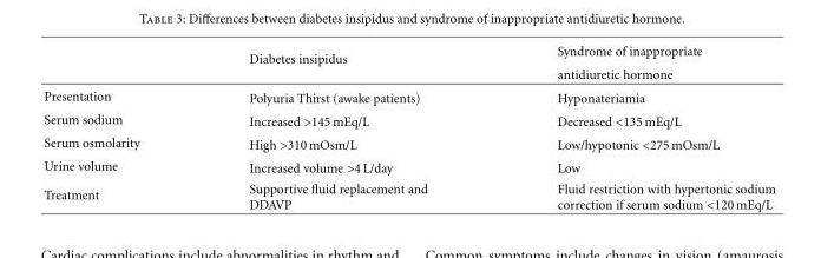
<table><thead><tr><td rowspan="2"></td><td rowspan="2">Diabetes insipidus</td><td rowspan="2">Syndrome of inappropriate antidiuretic hormone</td></tr><tr></tr></thead><tbody><tr><td>Presentation</td><td>Polyuria Thirst (awake patients)</td><td>Hyponateriamia</td></tr><tr><td>Serum sodium</td><td>Increased &gt;145 mEq/L</td><td>Decreased &lt;135 mEq/L</td></tr><tr><td>Serum osmolarity</td><td>High &gt;310 mOsm/L</td><td>Low/hypotonic &lt;275 mOsm/L</td></tr><tr><td>Urine volume</td><td>Increased volume &gt;4 L/day</td><td>Low</td></tr><tr><td>Treatment</td><td>Supportive fluid replacement and DDAVP</td><td>Fluid restriction with hypertonic sodium correction if serum sodium &lt;120 mEq/L</td></tr></tbody></table>